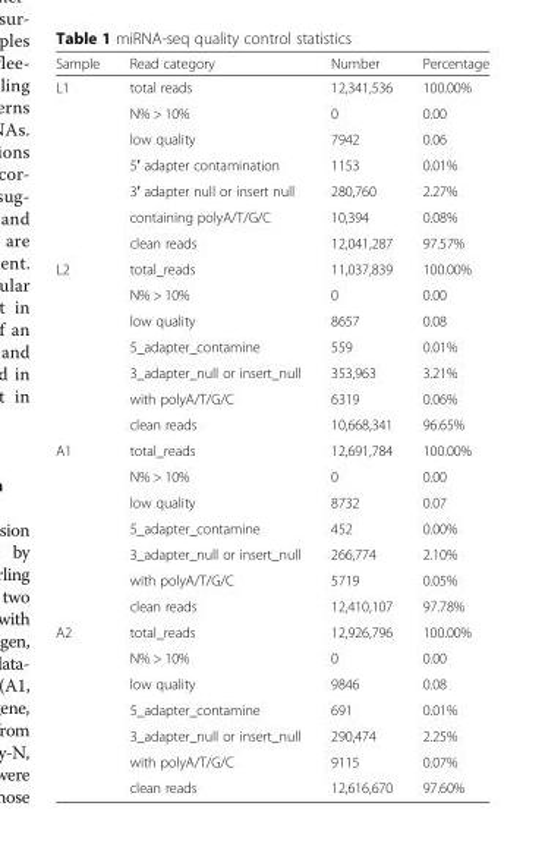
<table><thead><tr><td>Sample</td><td>Read category</td><td>Number</td><td>Percentage</td></tr></thead><tbody><tr><td rowspan="7">L1</td><td>total reads</td><td>12,341,536</td><td>100.00%</td></tr><tr><td>N% &gt; 10%</td><td>0</td><td>0.00</td></tr><tr><td>low quality</td><td>7942</td><td>0.06</td></tr><tr><td>5′ adapter contamination</td><td>1153</td><td>0.01%</td></tr><tr><td>3′ adapter null or insert null</td><td>280,760</td><td>2.27%</td></tr><tr><td>containing polyA/T/G/C</td><td>10,394</td><td>0.08%</td></tr><tr><td>clean reads</td><td>12,041,287</td><td>97.57%</td></tr><tr><td rowspan="7">L2</td><td>total_reads</td><td>11,037,839</td><td>100.00%</td></tr><tr><td>N% &gt; 10%</td><td>0</td><td>0.00</td></tr><tr><td>low quality</td><td>8657</td><td>0.08</td></tr><tr><td>5_adapter_contamine</td><td>559</td><td>0.01%</td></tr><tr><td>3_adapter_null or insert_null</td><td>353,963</td><td>3.21%</td></tr><tr><td>with polyA/T/G/C</td><td>6319</td><td>0.06%</td></tr><tr><td>clean reads</td><td>10,668,341</td><td>96.65%</td></tr><tr><td rowspan="7">A1</td><td>total_reads</td><td>12,691,784</td><td>100.00%</td></tr><tr><td>N% &gt; 10%</td><td>0</td><td>0.00</td></tr><tr><td>low quality</td><td>8732</td><td>0.07</td></tr><tr><td>5_adapter_contamine</td><td>452</td><td>0.00%</td></tr><tr><td>3_adapter_null or insert_null</td><td>266,774</td><td>2.10%</td></tr><tr><td>with polyA/T/G/C</td><td>5719</td><td>0.05%</td></tr><tr><td>clean reads</td><td>12,410,107</td><td>97.78%</td></tr><tr><td rowspan="7">A2</td><td>total_reads</td><td>12,926,796</td><td>100.00%</td></tr><tr><td>N% &gt; 10%</td><td>0</td><td>0.00</td></tr><tr><td>low quality</td><td>9846</td><td>0.08</td></tr><tr><td>5_adapter_contamine</td><td>691</td><td>0.01%</td></tr><tr><td>3_adapter_null or insert_null</td><td>290,474</td><td>2.25%</td></tr><tr><td>with polyA/T/G/C</td><td>9115</td><td>0.07%</td></tr><tr><td>clean reads</td><td>12,616,670</td><td>97.60%</td></tr></tbody></table>